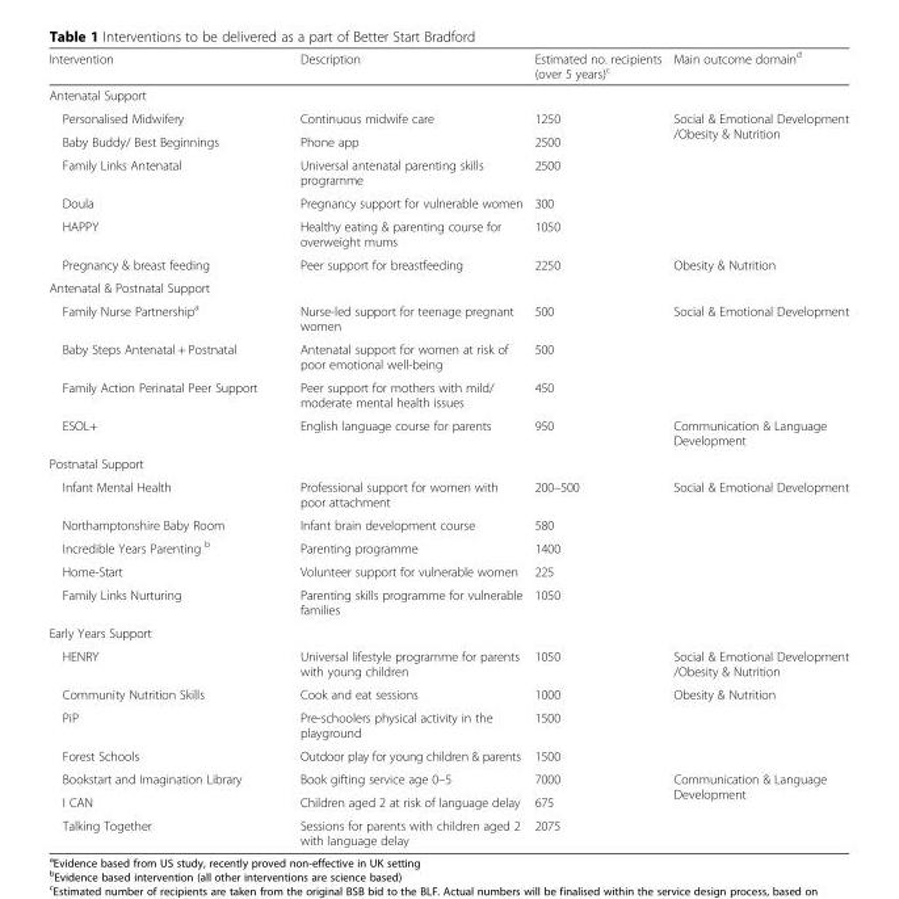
<table><thead><tr><td>Intervention</td><td>Description</td><td>Estimated no. recipients (over 5 years)<sup>c</sup></td><td>Main outcome domain<sup>d</sup></td></tr></thead><tbody><tr><td colspan="4">Antenatal Support</td></tr><tr><td>Personalised Midwifery</td><td>Continuous midwife care</td><td>1250</td><td rowspan="5">Social &amp; Emotional Development /Obesity &amp; Nutrition</td></tr><tr><td>Baby Buddy/ Best Beginnings</td><td>Phone app</td><td>2500</td></tr><tr><td>Family Links Antenatal</td><td>Universal antenatal parenting skills programme</td><td>2500</td></tr><tr><td>Doula</td><td>Pregnancy support for vulnerable women</td><td>300</td></tr><tr><td>HAPPY</td><td>Healthy eating &amp; parenting course for overweight mums</td><td>1050</td></tr><tr><td>Pregnancy &amp; breast feeding</td><td>Peer support for breastfeeding</td><td>2250</td><td>Obesity &amp; Nutrition</td></tr><tr><td colspan="4">Antenatal &amp; Postnatal Support</td></tr><tr><td>Family Nurse Partnership<sup>a</sup></td><td>Nurse-led support for teenage pregnant women</td><td>500</td><td rowspan="3">Social &amp; Emotional Development</td></tr><tr><td>Baby Steps Antenatal + Postnatal</td><td>Antenatal support for women at risk of poor emotional well-being</td><td>500</td></tr><tr><td>Family Action Perinatal Peer Support</td><td>Peer support for mothers with mild/ moderate mental health issues</td><td>450</td></tr><tr><td>ESOL+</td><td>English language course for parents</td><td>950</td><td>Communication &amp; Language Development</td></tr><tr><td colspan="4">Postnatal Support</td></tr><tr><td>Infant Mental Health</td><td>Professional support for women with poor attachment</td><td>200–500</td><td rowspan="5">Social &amp; Emotional Development</td></tr><tr><td>Northamptonshire Baby Room</td><td>Infant brain development course</td><td>580</td></tr><tr><td>Incredible Years Parenting <sup>b</sup></td><td>Parenting programme</td><td>1400</td></tr><tr><td>Home-Start</td><td>Volunteer support for vulnerable women</td><td>225</td></tr><tr><td>Family Links Nurturing</td><td>Parenting skills programme for vulnerable families</td><td>1050</td></tr><tr><td colspan="4">Early Years Support</td></tr><tr><td>HENRY</td><td>Universal lifestyle programme for parents with young children</td><td>1050</td><td>Social &amp; Emotional Development /Obesity &amp; Nutrition</td></tr><tr><td>Community Nutrition Skills</td><td>Cook and eat sessions</td><td>1000</td><td rowspan="3">Obesity &amp; Nutrition</td></tr><tr><td>PiP</td><td>Pre-schoolers physical activity in the playground</td><td>1500</td></tr><tr><td>Forest Schools</td><td>Outdoor play for young children &amp; parents</td><td>1500</td></tr><tr><td>Bookstart and Imagination Library</td><td>Book gifting service age 0–5</td><td>7000</td><td rowspan="3">Communication &amp; Language Development</td></tr><tr><td>I CAN</td><td>Children aged 2 at risk of language delay</td><td>675</td></tr><tr><td>Talking Together</td><td>Sessions for parents with children aged 2 with language delay</td><td>2075</td></tr></tbody></table>